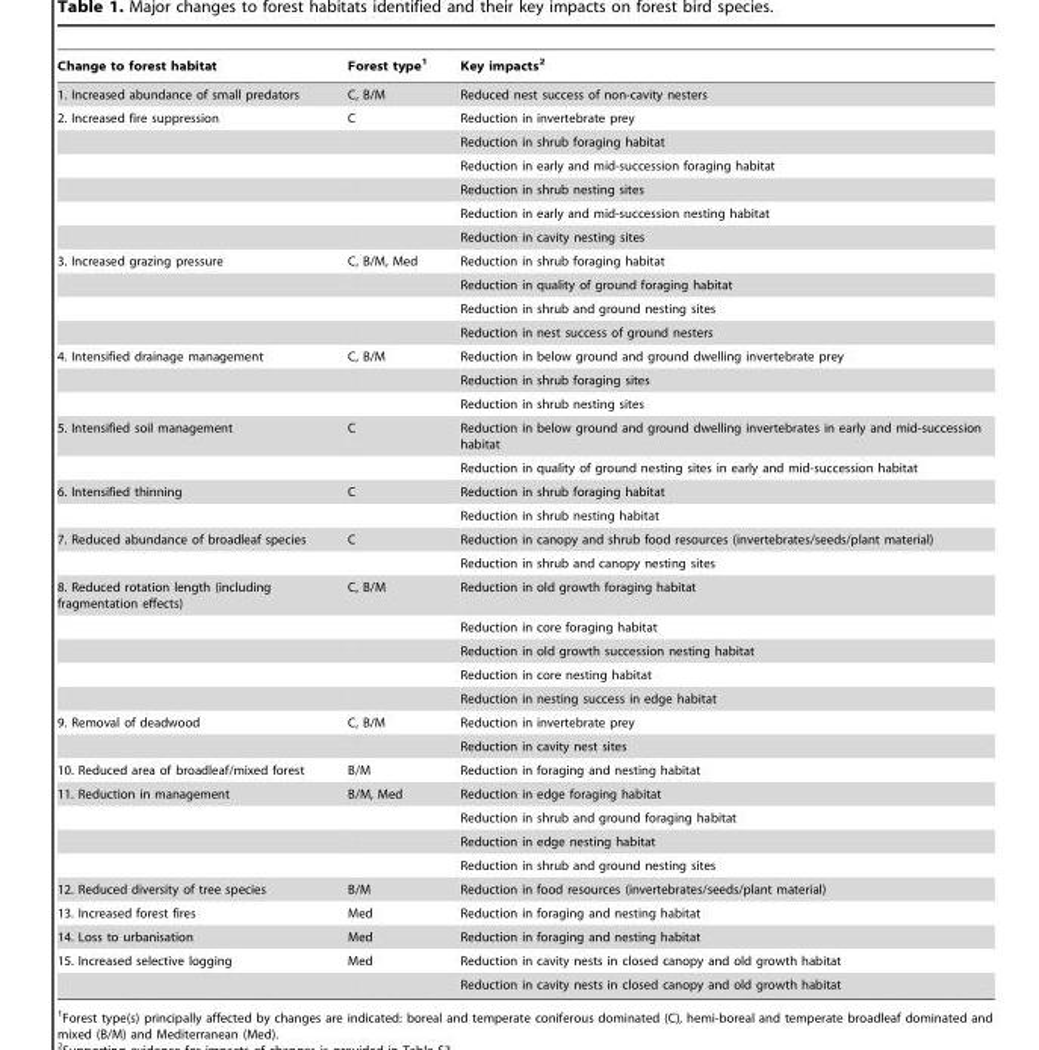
<table><thead><tr><td>Change to forest habitat</td><td>Forest type<sup>1</sup></td><td>Key impacts<sup>2</sup></td></tr></thead><tbody><tr><td>1. Increased abundance of small predators</td><td>C, B/M</td><td>Reduced nest success of non-cavity nesters</td></tr><tr><td rowspan="6">2. Increased fire suppression</td><td>C</td><td>Reduction in invertebrate prey</td></tr><tr><td></td><td>Reduction in shrub foraging habitat</td></tr><tr><td></td><td>Reduction in early and mid-succession foraging habitat</td></tr><tr><td></td><td>Reduction in shrub nesting sites</td></tr><tr><td></td><td>Reduction in early and mid-succession nesting habitat</td></tr><tr><td></td><td>Reduction in cavity nesting sites</td></tr><tr><td rowspan="4">3. Increased grazing pressure</td><td>C, B/M, Med</td><td>Reduction in shrub foraging habitat</td></tr><tr><td></td><td>Reduction in quality of ground foraging habitat</td></tr><tr><td></td><td>Reduction in shrub and ground nesting sites</td></tr><tr><td></td><td>Reduction in nest success of ground nesters</td></tr><tr><td rowspan="3">4. Intensified drainage management</td><td>C, B/M</td><td>Reduction in below ground and ground dwelling invertebrate prey</td></tr><tr><td></td><td>Reduction in shrub foraging sites</td></tr><tr><td></td><td>Reduction in shrub nesting sites</td></tr><tr><td rowspan="2">5. Intensified soil management</td><td>C</td><td>Reduction in below ground and ground dwelling invertebrates in early and mid-succession habitat</td></tr><tr><td></td><td>Reduction in quality of ground nesting sites in early and mid-succession habitat</td></tr><tr><td rowspan="2">6. Intensified thinning</td><td>C</td><td>Reduction in shrub foraging habitat</td></tr><tr><td></td><td>Reduction in shrub nesting habitat</td></tr><tr><td rowspan="2">7. Reduced abundance of broadleaf species</td><td>C</td><td>Reduction in canopy and shrub food resources (invertebrates/seeds/plant material)</td></tr><tr><td></td><td>Reduction in shrub and canopy nesting sites</td></tr><tr><td rowspan="5">8. Reduced rotation length (including fragmentation effects)</td><td>C, B/M</td><td>Reduction in old growth foraging habitat</td></tr><tr><td></td><td>Reduction in core foraging habitat</td></tr><tr><td></td><td>Reduction in old growth succession nesting habitat</td></tr><tr><td></td><td>Reduction in core nesting habitat</td></tr><tr><td></td><td>Reduction in nesting success in edge habitat</td></tr><tr><td rowspan="2">9. Removal of deadwood</td><td>C, B/M</td><td>Reduction in invertebrate prey</td></tr><tr><td></td><td>Reduction in cavity nest sites</td></tr><tr><td>10. Reduced area of broadleaf/mixed forest</td><td>B/M</td><td>Reduction in foraging and nesting habitat</td></tr><tr><td rowspan="4">11. Reduction in management</td><td>B/M, Med</td><td>Reduction in edge foraging habitat</td></tr><tr><td></td><td>Reduction in shrub and ground foraging habitat</td></tr><tr><td></td><td>Reduction in edge nesting habitat</td></tr><tr><td></td><td>Reduction in shrub and ground nesting sites</td></tr><tr><td>12. Reduced diversity of tree species</td><td>B/M</td><td>Reduction in food resources (invertebrates/seeds/plant material)</td></tr><tr><td>13. Increased forest fires</td><td>Med</td><td>Reduction in foraging and nesting habitat</td></tr><tr><td>14. Loss to urbanisation</td><td>Med</td><td>Reduction in foraging and nesting habitat</td></tr><tr><td rowspan="2">15. Increased selective logging</td><td>Med</td><td>Reduction in cavity nests in closed canopy and old growth habitat</td></tr><tr><td></td><td>Reduction in cavity nests in closed canopy and old growth habitat</td></tr></tbody></table>